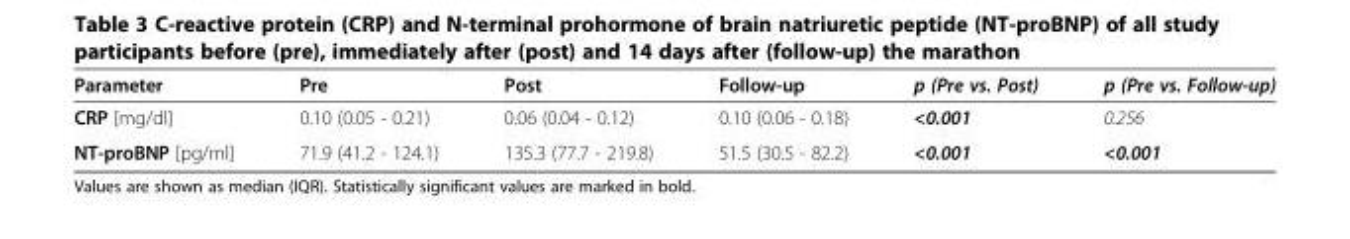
<table><thead><tr><td>Parameter</td><td>Pre</td><td>Post</td><td>Follow-up</td><td>p (Pre vs. Post)</td><td>p (Pre vs. Follow-up)</td></tr></thead><tbody><tr><td>CRP [mg/dl]</td><td>0.10 (0.05 - 0.21)</td><td>0.06 (0.04 - 0.12)</td><td>0.10 (0.06 - 0.18)</td><td>&lt;0.001</td><td>0.256</td></tr><tr><td>NT-proBNP [pg/ml]</td><td>71.9 (41.2 - 124.1)</td><td>135.3 (77.7 - 219.8)</td><td>51.5 (30.5 - 82.2)</td><td>&lt;0.001</td><td>&lt;0.001</td></tr></tbody></table>